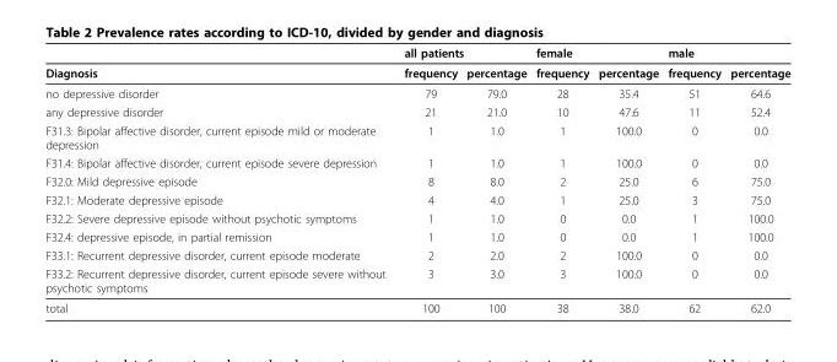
<table><thead><tr><td rowspan="2">Diagnosis</td><td colspan="2">all patients</td><td colspan="2">female</td><td colspan="2">male</td></tr><tr><td>frequency</td><td>percentage</td><td>frequency</td><td>percentage</td><td>frequency</td><td>percentage</td></tr></thead><tbody><tr><td>no depressive disorder</td><td>79</td><td>79.0</td><td>28</td><td>35.4</td><td>51</td><td>64.6</td></tr><tr><td>any depressive disorder</td><td>21</td><td>21.0</td><td>10</td><td>47.6</td><td>11</td><td>52.4</td></tr><tr><td>F31.3: Bipolar affective disorder, current episode mild or moderate depression</td><td>1</td><td>1.0</td><td>1</td><td>100.0</td><td>0</td><td>0.0</td></tr><tr><td>F31.4: Bipolar affective disorder, current episode severe depression</td><td>1</td><td>1.0</td><td>1</td><td>100.0</td><td>0</td><td>0.0</td></tr><tr><td>F32.0: Mild depressive episode</td><td>8</td><td>8.0</td><td>2</td><td>25.0</td><td>6</td><td>75.0</td></tr><tr><td>F32.1: Moderate depressive episode</td><td>4</td><td>4.0</td><td>1</td><td>25.0</td><td>3</td><td>75.0</td></tr><tr><td>F32.2: Severe depressive episode without psychotic symptoms</td><td>1</td><td>1.0</td><td>0</td><td>0.0</td><td>1</td><td>100.0</td></tr><tr><td>F32.4: depressive episode, in partial remission</td><td>1</td><td>1.0</td><td>0</td><td>0.0</td><td>1</td><td>100.0</td></tr><tr><td>F33.1: Recurrent depressive disorder, current episode moderate</td><td>2</td><td>2.0</td><td>2</td><td>100.0</td><td>0</td><td>0.0</td></tr><tr><td>F33.2: Recurrent depressive disorder, current episode severe without psychotic symptoms</td><td>3</td><td>3.0</td><td>3</td><td>100.0</td><td>0</td><td>0.0</td></tr><tr><td>total</td><td>100</td><td>100</td><td>38</td><td>38.0</td><td>62</td><td>62.0</td></tr></tbody></table>